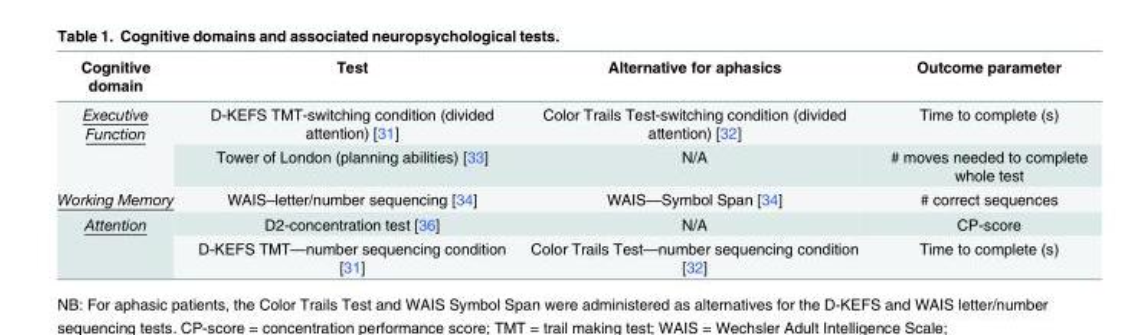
<table><thead><tr><td>Cognitive domain</td><td>Test</td><td>Alternative for aphasics</td><td>Outcome parameter</td></tr></thead><tbody><tr><td rowspan="2">Executive Function</td><td>D-KEFS TMT-switching condition (divided attention) [31]</td><td>Color Trails Test-switching condition (divided attention) [32]</td><td>Time to complete (s)</td></tr><tr><td>Tower of London (planning abilities) [33]</td><td>N/A</td><td># moves needed to complete whole test</td></tr><tr><td>Working Memory</td><td>WAIS–letter/number sequencing [34]</td><td>WAIS—Symbol Span [34]</td><td># correct sequences</td></tr><tr><td rowspan="2">Attention</td><td>D2-concentration test [36]</td><td>N/A</td><td>CP-score</td></tr><tr><td>D-KEFS TMT—number sequencing condition [31]</td><td>Color Trails Test—number sequencing condition [32]</td><td>Time to complete (s)</td></tr></tbody></table>